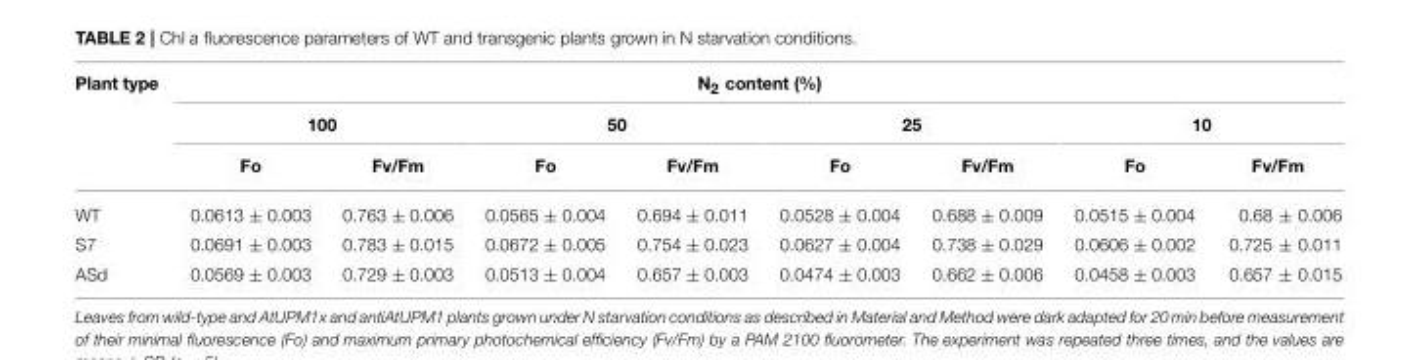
<table><thead><tr><td rowspan="3">Plant type</td><td colspan="8">N<sub>2</sub> content (%)</td></tr><tr><td colspan="2">100</td><td colspan="2">50</td><td colspan="2">25</td><td colspan="2">10</td></tr><tr><td>Fo</td><td>Fv/Fm</td><td>Fo</td><td>Fv/Fm</td><td>Fo</td><td>Fv/Fm</td><td>Fo</td><td>Fv/Fm</td></tr></thead><tbody><tr><td>WT</td><td>0.0613 ± 0.003</td><td>0.763 ± 0.006</td><td>0.0565 ± 0.004</td><td>0.694 ± 0.011</td><td>0.0528 ± 0.004</td><td>0.688 ± 0.009</td><td>0.0515 ± 0.004</td><td>0.68 ± 0.006</td></tr><tr><td>S7</td><td>0.0691 ± 0.003</td><td>0.783 ± 0.015</td><td>0.0672 ± 0.005</td><td>0.754 ± 0.023</td><td>0.0627 ± 0.004</td><td>0.738 ± 0.029</td><td>0.0606 ± 0.002</td><td>0.725 ± 0.011</td></tr><tr><td>ASd</td><td>0.0569 ± 0.003</td><td>0.729 ± 0.003</td><td>0.0513 ± 0.004</td><td>0.657 ± 0.003</td><td>0.0474 ± 0.003</td><td>0.662 ± 0.006</td><td>0.0458 ± 0.003</td><td>0.657 ± 0.015</td></tr></tbody></table>